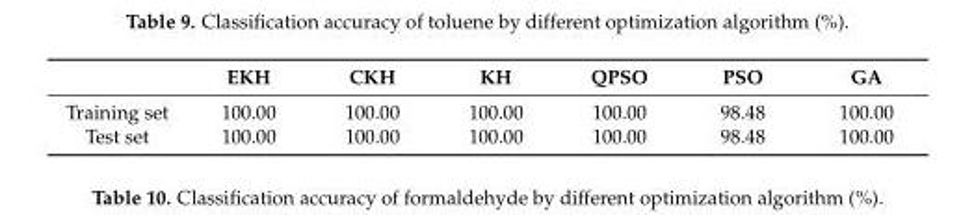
<table><thead><tr><td></td><td>EKH</td><td>CKH</td><td>KH</td><td>QPSO</td><td>PSO</td><td>GA</td></tr></thead><tbody><tr><td>Training set</td><td>100.00</td><td>100.00</td><td>100.00</td><td>100.00</td><td>98.48</td><td>100.00</td></tr><tr><td>Test set</td><td>100.00</td><td>100.00</td><td>100.00</td><td>100.00</td><td>98.48</td><td>100.00</td></tr></tbody></table>